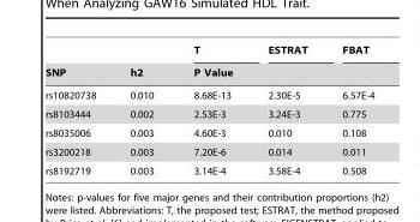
<table><thead><tr><td rowspan="2">SNP</td><td rowspan="2">h2</td><td>T</td><td>ESTRAT</td><td>FBAT</td></tr><tr><td colspan="3">P Value</td></tr></thead><tbody><tr><td>rs10820738</td><td>0.010</td><td>8.68E-13</td><td>2.30E-5</td><td>6.57E-4</td></tr><tr><td>rs8103444</td><td>0.002</td><td>2.53E-3</td><td>3.24E-3</td><td>0.775</td></tr><tr><td>rs8035006</td><td>0.003</td><td>4.60E-3</td><td>0.010</td><td>0.108</td></tr><tr><td>rs3200218</td><td>0.003</td><td>7.20E-6</td><td>0.014</td><td>0.011</td></tr><tr><td>rs8192719</td><td>0.003</td><td>3.14E-4</td><td>3.58E-4</td><td>0.508</td></tr></tbody></table>